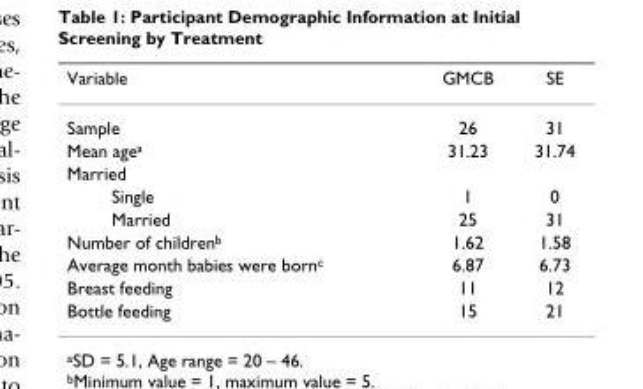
<table><thead><tr><td>Variable</td><td>GMCB</td><td>SE</td></tr></thead><tbody><tr><td>Sample</td><td>26</td><td>31</td></tr><tr><td>Mean age<sup>a</sup></td><td>31.23</td><td>31.74</td></tr><tr><td colspan="3">Married</td></tr><tr><td>Single</td><td>1</td><td>0</td></tr><tr><td>Married</td><td>25</td><td>31</td></tr><tr><td>Number of children<sup>b</sup></td><td>1.62</td><td>1.58</td></tr><tr><td>Average month babies were born<sup>c</sup></td><td>6.87</td><td>6.73</td></tr><tr><td>Breast feeding</td><td>11</td><td>12</td></tr><tr><td>Bottle feeding</td><td>15</td><td>21</td></tr></tbody></table>